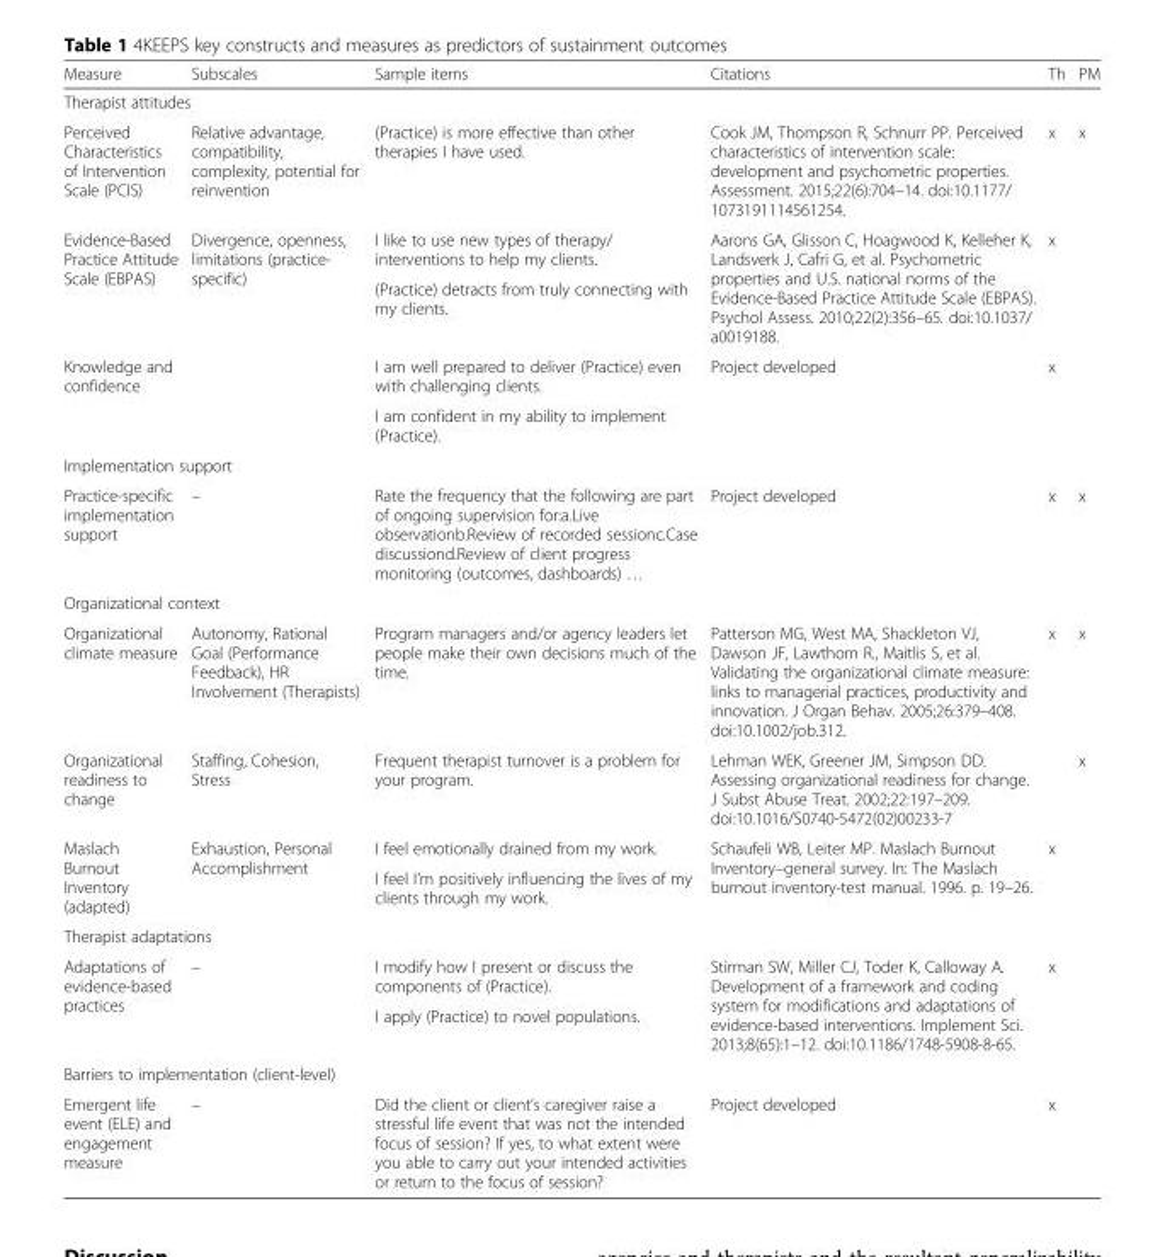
<table><thead><tr><td>Measure</td><td>Subscales</td><td>Sample items</td><td>Citations</td><td>Th</td><td>PM</td></tr></thead><tbody><tr><td colspan="6">Therapist attitudes</td></tr><tr><td>Perceived Characteristics of Intervention Scale (PCIS)</td><td>Relative advantage, compatibility, complexity, potential for reinvention</td><td>(Practice) is more effective than other therapies I have used.</td><td>Cook JM, Thompson R, Schnurr PP. Perceived characteristics of intervention scale: development and psychometric properties. Assessment. 2015;22(6):704–14. doi:10.1177/ 1073191114561254.</td><td>x</td><td>x</td></tr><tr><td rowspan="2">Evidence-Based Practice Attitude Scale (EBPAS)</td><td rowspan="2">Divergence, openness, limitations (practice- specific)</td><td>I like to use new types of therapy/ interventions to help my clients.</td><td rowspan="2">Aarons GA, Glisson C, Hoagwood K, Kelleher K, Landsverk J, Cafri G, et al. Psychometric properties and U.S. national norms of the Evidence-Based Practice Attitude Scale (EBPAS). Psychol Assess. 2010;22(2):356–65. doi:10.1037/ a0019188.</td><td rowspan="2">x</td><td rowspan="2"></td></tr><tr><td>(Practice) detracts from truly connecting with my clients.</td></tr><tr><td rowspan="2">Knowledge and confidence</td><td rowspan="2"></td><td>I am well prepared to deliver (Practice) even with challenging clients.</td><td rowspan="2">Project developed</td><td rowspan="2">x</td><td rowspan="2"></td></tr><tr><td>I am confident in my ability to implement (Practice).</td></tr><tr><td colspan="6">Implementation support</td></tr><tr><td>Practice-specific implementation support</td><td>–</td><td>Rate the frequency that the following are part of ongoing supervision for:a.Live observationb.Review of recorded sessionc.Case discussiond.Review of client progress monitoring (outcomes, dashboards) …</td><td>Project developed</td><td>x</td><td>x</td></tr><tr><td colspan="6">Organizational context</td></tr><tr><td>Organizational climate measure</td><td>Autonomy, Rational Goal (Performance Feedback), HR Involvement (Therapists)</td><td>Program managers and/or agency leaders let people make their own decisions much of the time.</td><td>Patterson MG, West MA, Shackleton VJ, Dawson JF, Lawthom R., Maitlis S, et al. Validating the organizational climate measure: links to managerial practices, productivity and innovation. J Organ Behav. 2005;26:379–408. doi:10.1002/job.312.</td><td>x</td><td>x</td></tr><tr><td>Organizational readiness to change</td><td>Staffing, Cohesion, Stress</td><td>Frequent therapist turnover is a problem for your program.</td><td>Lehman WEK, Greener JM, Simpson DD. Assessing organizational readiness for change. J Subst Abuse Treat. 2002;22:197–209. doi:10.1016/S0740-5472(02)00233-7</td><td></td><td>x</td></tr><tr><td rowspan="2">Maslach Burnout Inventory (adapted)</td><td rowspan="2">Exhaustion, Personal Accomplishment</td><td>I feel emotionally drained from my work.</td><td rowspan="2">Schaufeli WB, Leiter MP. Maslach Burnout Inventory–general survey. In: The Maslach burnout inventory-test manual. 1996. p. 19–26.</td><td rowspan="2">x</td><td rowspan="2"></td></tr><tr><td>I feel I’m positively influencing the lives of my clients through my work.</td></tr><tr><td colspan="6">Therapist adaptations</td></tr><tr><td rowspan="2">Adaptations of evidence-based practices</td><td rowspan="2">–</td><td>I modify how I present or discuss the components of (Practice).</td><td rowspan="2">Stirman SW, Miller CJ, Toder K, Calloway A. Development of a framework and coding system for modifications and adaptations of evidence-based interventions. Implement Sci. 2013;8(65):1–12. doi:10.1186/1748-5908-8-65.</td><td rowspan="2">x</td><td rowspan="2"></td></tr><tr><td>I apply (Practice) to novel populations.</td></tr><tr><td colspan="6">Barriers to implementation (client-level)</td></tr><tr><td>Emergent life event (ELE) and engagement measure</td><td>–</td><td>Did the client or client’s caregiver raise a stressful life event that was not the intended focus of session? If yes, to what extent were you able to carry out your intended activities or return to the focus of session?</td><td>Project developed</td><td>x</td><td></td></tr></tbody></table>